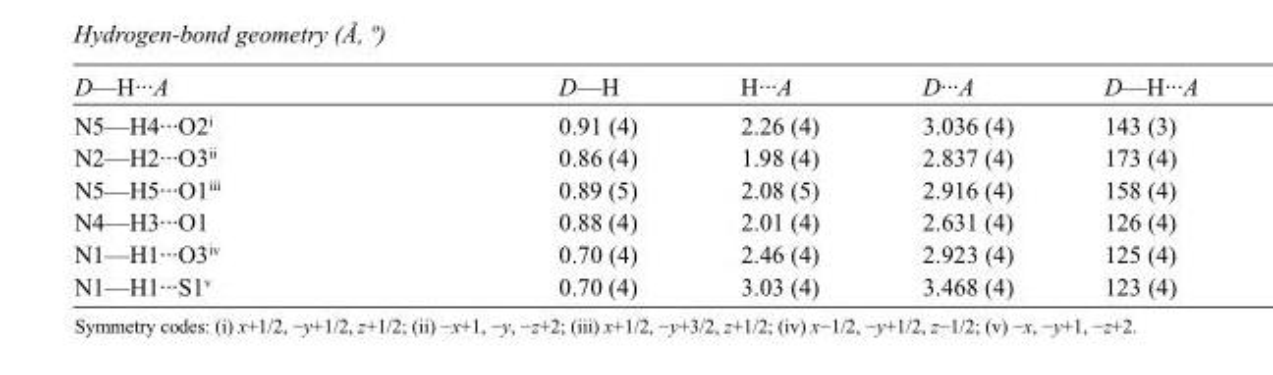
<table><tbody><tr><td>D—H···A</td><td>D—H</td><td>H···A</td><td>D···A</td><td>D—H···A</td></tr><tr><td>N5—H4···O2<sup>i</sup></td><td>0.91 (4)</td><td>2.26 (4)</td><td>3.036 (4)</td><td>143 (3)</td></tr><tr><td>N2—H2···O3<sup>ii</sup></td><td>0.86 (4)</td><td>1.98 (4)</td><td>2.837 (4)</td><td>173 (4)</td></tr><tr><td>N5—H5···O1<sup>iii</sup></td><td>0.89 (5)</td><td>2.08 (5)</td><td>2.916 (4)</td><td>158 (4)</td></tr><tr><td>N4—H3···O1</td><td>0.88 (4)</td><td>2.01 (4)</td><td>2.631 (4)</td><td>126 (4)</td></tr><tr><td>N1—H1···O3<sup>iv</sup></td><td>0.70 (4)</td><td>2.46 (4)</td><td>2.923 (4)</td><td>125 (4)</td></tr><tr><td>N1—H1···S1<sup>v</sup></td><td>0.70 (4)</td><td>3.03 (4)</td><td>3.468 (4)</td><td>123 (4)</td></tr></tbody></table>